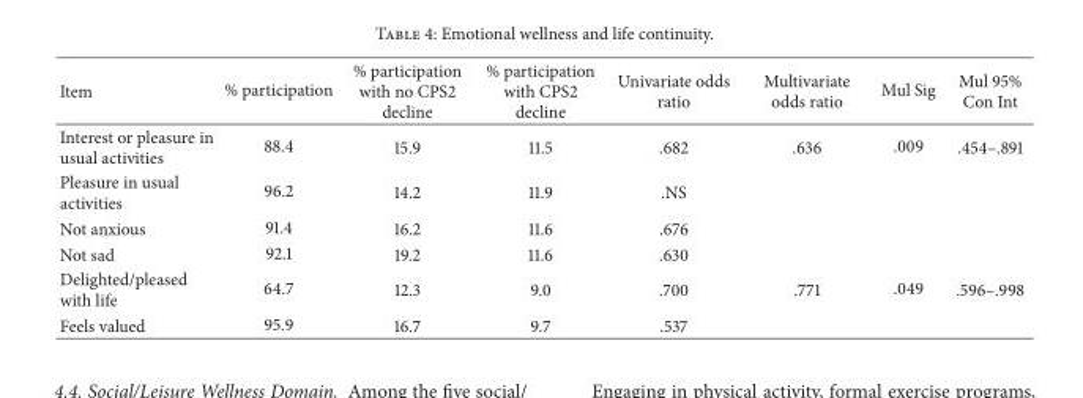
<table><thead><tr><td>Item</td><td>% participation</td><td>% participation with no CPS2 decline</td><td>% participation with CPS2 decline</td><td>Univariate odds ratio</td><td>Multivariate odds ratio</td><td>Mul Sig</td><td>Mul 95% Con Int</td></tr></thead><tbody><tr><td>Interest or pleasure in usual activities</td><td>88.4</td><td>15.9</td><td>11.5</td><td>.682</td><td>.636</td><td>.009</td><td>.454–.891</td></tr><tr><td>Pleasure in usual activities</td><td>96.2</td><td>14.2</td><td>11.9</td><td>.NS</td><td></td><td></td><td></td></tr><tr><td>Not anxious</td><td>91.4</td><td>16.2</td><td>11.6</td><td>.676</td><td></td><td></td><td></td></tr><tr><td>Not sad</td><td>92.1</td><td>19.2</td><td>11.6</td><td>.630</td><td></td><td></td><td></td></tr><tr><td>Delighted/pleased with life</td><td>64.7</td><td>12.3</td><td>9.0</td><td>.700</td><td>.771</td><td>.049</td><td>.596–.998</td></tr><tr><td>Feels valued</td><td>95.9</td><td>16.7</td><td>9.7</td><td>.537</td><td></td><td></td><td></td></tr></tbody></table>